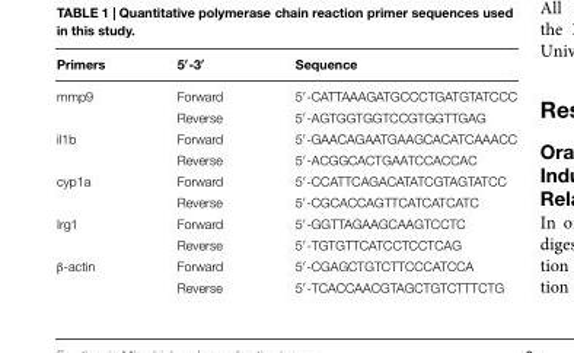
<table><thead><tr><td>Primers</td><td>5′-3′</td><td>Sequence</td></tr></thead><tbody><tr><td rowspan="2">mmp9</td><td>Forward</td><td>5′-CATTAAAGATGCCCTGATGTATCCC</td></tr><tr><td>Reverse</td><td>5′-AGTGGTGGTCCGTGGTTGAG</td></tr><tr><td rowspan="2">il1b</td><td>Forward</td><td>5′-GAACAGAATGAAGCACATCAAACC</td></tr><tr><td>Reverse</td><td>5′-ACGGCACTGAATCCACCAC</td></tr><tr><td rowspan="2">cyp1a</td><td>Forward</td><td>5′-CCATTCAGACATATCGTAGTATCC</td></tr><tr><td>Reverse</td><td>5′-CGCACCAGTTCATCATCATC</td></tr><tr><td rowspan="2">Irg1</td><td>Forward</td><td>5′-GGTTAGAAGCAAGTCCTC</td></tr><tr><td>Reverse</td><td>5′-TGTGTTCATCCTCCTCAG</td></tr><tr><td rowspan="2">β-actin</td><td>Forward</td><td>5′-CGAGCTGTCTTCCCATCCA</td></tr><tr><td>Reverse</td><td>5′-TCACCAACGTAGCTGTCTTTCTG</td></tr></tbody></table>